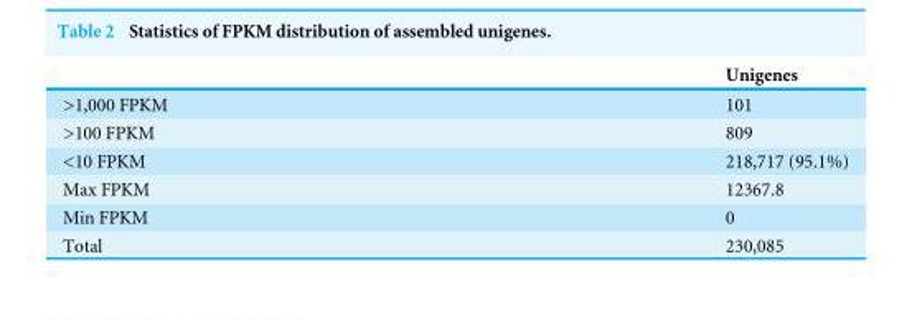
<table><thead><tr><td></td><td>Unigenes</td></tr></thead><tbody><tr><td>&gt;1,000 FPKM</td><td>101</td></tr><tr><td>&gt;100 FPKM</td><td>809</td></tr><tr><td>&lt;10 FPKM</td><td>218,717 (95.1%)</td></tr><tr><td>Max FPKM</td><td>12367.8</td></tr><tr><td>Min FPKM</td><td>0</td></tr><tr><td>Total</td><td>230,085</td></tr></tbody></table>